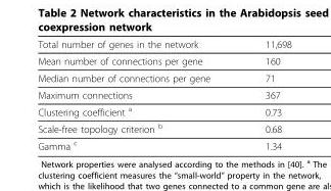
<table><thead><tr><td>Total number of genes in the network</td><td>11,698</td></tr></thead><tbody><tr><td>Mean number of connections per gene</td><td>160</td></tr><tr><td>Median number of connections per gene</td><td>71</td></tr><tr><td>Maximum connections</td><td>367</td></tr><tr><td>Clustering coefficient <sup>a</sup></td><td>0.73</td></tr><tr><td>Scale-free topology criterion <sup>b</sup></td><td>0.68</td></tr><tr><td>Gamma <sup>c</sup></td><td>1.34</td></tr></tbody></table>